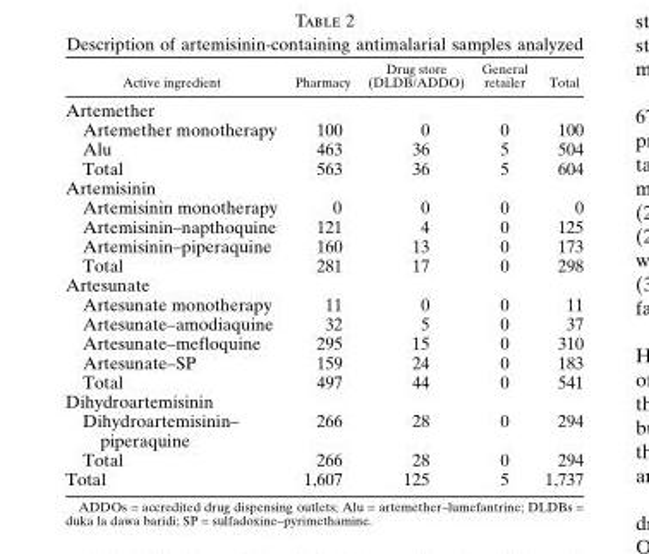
<table><thead><tr><td>Active ingredient</td><td>Pharmacy</td><td>Drug store (DLDB/ADDO)</td><td>General retailer</td><td>Total</td></tr></thead><tbody><tr><td colspan="5">Artemether</td></tr><tr><td>Artemether monotherapy</td><td>100</td><td>0</td><td>0</td><td>100</td></tr><tr><td>Alu</td><td>463</td><td>36</td><td>5</td><td>504</td></tr><tr><td>Total</td><td>563</td><td>36</td><td>5</td><td>604</td></tr><tr><td colspan="5">Artemisinin</td></tr><tr><td>Artemisinin monotherapy</td><td>0</td><td>0</td><td>0</td><td>0</td></tr><tr><td>Artemisinin–napthoquine</td><td>121</td><td>4</td><td>0</td><td>125</td></tr><tr><td>Artemisinin–piperaquine</td><td>160</td><td>13</td><td>0</td><td>173</td></tr><tr><td>Total</td><td>281</td><td>17</td><td>0</td><td>298</td></tr><tr><td colspan="5">Artesunate</td></tr><tr><td>Artesunate monotherapy</td><td>11</td><td>0</td><td>0</td><td>11</td></tr><tr><td>Artesunate–amodiaquine</td><td>32</td><td>5</td><td>0</td><td>37</td></tr><tr><td>Artesunate–mefloquine</td><td>295</td><td>15</td><td>0</td><td>310</td></tr><tr><td>Artesunate–SP</td><td>159</td><td>24</td><td>0</td><td>183</td></tr><tr><td>Total</td><td>497</td><td>44</td><td>0</td><td>541</td></tr><tr><td colspan="5">Dihydroartemisinin</td></tr><tr><td>Dihydroartemisinin– piperaquine</td><td>266</td><td>28</td><td>0</td><td>294</td></tr><tr><td>Total</td><td>266</td><td>28</td><td>0</td><td>294</td></tr><tr><td>Total</td><td>1,607</td><td>125</td><td>5</td><td>1,737</td></tr></tbody></table>